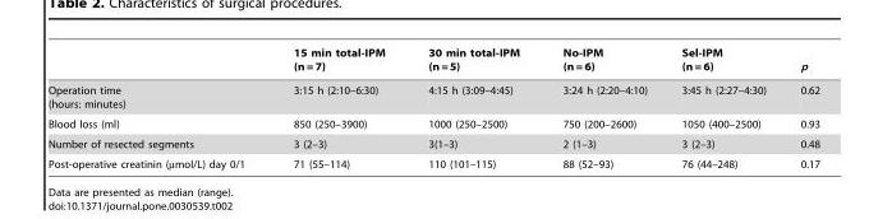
<table><thead><tr><td></td><td>15 min total-IPM (n = 7)</td><td>30 min total-IPM (n = 5)</td><td>No-IPM (n = 6)</td><td>Sel-IPM (n = 6)</td><td>p</td></tr></thead><tbody><tr><td>Operation time (hours: minutes)</td><td>3:15 h (2:10–6:30)</td><td>4:15 h (3:09–4:45)</td><td>3:24 h (2:20–4:10)</td><td>3:45 h (2:27–4:30)</td><td>0.62</td></tr><tr><td>Blood loss (ml)</td><td>850 (250–3900)</td><td>1000 (250–2500)</td><td>750 (200–2600)</td><td>1050 (400–2500)</td><td>0.93</td></tr><tr><td>Number of resected segments</td><td>3 (2–3)</td><td>3(1–3)</td><td>2 (1–3)</td><td>3 (2–3)</td><td>0.48</td></tr><tr><td>Post-operative creatinin (µmol/L) day 0/1</td><td>71 (55–114)</td><td>110 (101–115)</td><td>88 (52–93)</td><td>76 (44–248)</td><td>0.17</td></tr></tbody></table>